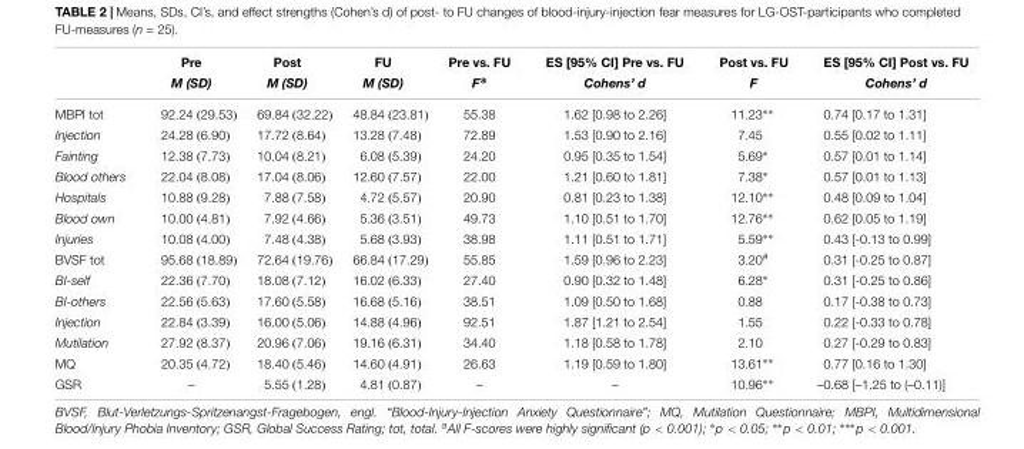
<table><thead><tr><td rowspan="2"></td><td rowspan="2">Pre M (SD)</td><td rowspan="2">Post M (SD)</td><td rowspan="2">FU M (SD)</td><td rowspan="2">Pre vs. FU F<sup>a</sup></td><td rowspan="2">ES [95% CI] Pre vs. FU Cohens’ d</td><td rowspan="2">Post vs. FU F</td><td rowspan="2">ES [95% CI] Post vs. FU Cohens’ d</td></tr><tr></tr></thead><tbody><tr><td>MBPI tot</td><td>92.24 (29.53)</td><td>69.84 (32.22)</td><td>48.84 (23.81)</td><td>55.38</td><td>1.62 [0.98 to 2.26]</td><td>11.23∗∗</td><td>0.74 [0.17 to 1.31]</td></tr><tr><td>Injection</td><td>24.28 (6.90)</td><td>17.72 (8.64)</td><td>13.28 (7.48)</td><td>72.89</td><td>1.53 [0.90 to 2.16]</td><td>7.45</td><td>0.55 [0.02 to 1.11]</td></tr><tr><td>Fainting</td><td>12.38 (7.73)</td><td>10.04 (8.21)</td><td>6.08 (5.39)</td><td>24.20</td><td>0.95 [0.35 to 1.54]</td><td>5.69∗</td><td>0.57 [0.01 to 1.14]</td></tr><tr><td>Blood others</td><td>22.04 (8.08)</td><td>17.04 (8.06)</td><td>12.60 (7.57)</td><td>22.00</td><td>1.21 [0.60 to 1.81]</td><td>7.38∗</td><td>0.57 [0.01 to 1.13]</td></tr><tr><td>Hospitals</td><td>10.88 (9.28)</td><td>7.88 (7.58)</td><td>4.72 (5.57)</td><td>20.90</td><td>0.81 [0.23 to 1.38]</td><td>12.10∗∗</td><td>0.48 [0.09 to 1.04]</td></tr><tr><td>Blood own</td><td>10.00 (4.81)</td><td>7.92 (4.66)</td><td>5.36 (3.51)</td><td>49.73</td><td>1.10 [0.51 to 1.70]</td><td>12.76∗∗</td><td>0.62 [0.05 to 1.19]</td></tr><tr><td>Injuries</td><td>10.08 (4.00)</td><td>7.48 (4.38)</td><td>5.68 (3.93)</td><td>38.98</td><td>1.11 [0.51 to 1.71]</td><td>5.59∗∗</td><td>0.43 [-0.13 to 0.99]</td></tr><tr><td>BVSF tot</td><td>95.68 (18.89)</td><td>72.64 (19.76)</td><td>66.84 (17.29)</td><td>55.85</td><td>1.59 [0.96 to 2.23]</td><td>3.20<sup>#</sup></td><td>0.31 [-0.25 to 0.87]</td></tr><tr><td>BI-self</td><td>22.36 (7.70)</td><td>18.08 (7.12)</td><td>16.02 (6.33)</td><td>27.40</td><td>0.90 [0.32 to 1.48]</td><td>6.28∗</td><td>0.31 [-0.25 to 0.86]</td></tr><tr><td>BI-others</td><td>22.56 (5.63)</td><td>17.60 (5.58)</td><td>16.68 (5.16)</td><td>38.51</td><td>1.09 [0.50 to 1.68]</td><td>0.88</td><td>0.17 [-0.38 to 0.73]</td></tr><tr><td>Injection</td><td>22.84 (3.39)</td><td>16.00 (5.06)</td><td>14.88 (4.96)</td><td>92.51</td><td>1.87 [1.21 to 2.54]</td><td>1.55</td><td>0.22 [-0.33 to 0.78]</td></tr><tr><td>Mutilation</td><td>27.92 (8.37)</td><td>20.96 (7.06)</td><td>19.16 (6.31)</td><td>34.40</td><td>1.18 [0.58 to 1.78]</td><td>2.10</td><td>0.27 [-0.29 to 0.83]</td></tr><tr><td>MQ</td><td>20.35 (4.72)</td><td>18.40 (5.46)</td><td>14.60 (4.91)</td><td>26.63</td><td>1.19 [0.59 to 1.80]</td><td>13.61∗∗</td><td>0.77 [0.16 to 1.30]</td></tr><tr><td>GSR</td><td>–</td><td>5.55 (1.28)</td><td>4.81 (0.87)</td><td>–</td><td>–</td><td>10.96∗∗</td><td>–0.68 [–1.25 to (–0.11)]</td></tr></tbody></table>